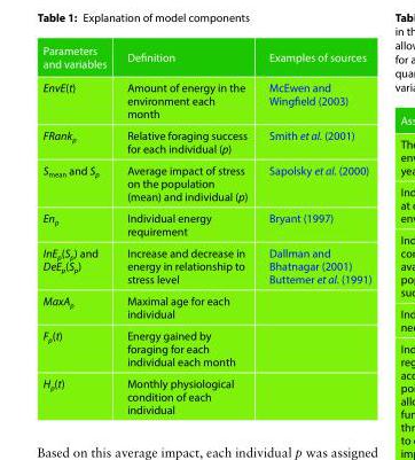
<table><thead><tr><td>Parameters and variables</td><td>Definition</td><td>Examples of sources</td></tr></thead><tbody><tr><td>EnvE(t)</td><td>Amount of energy in the environment each month</td><td>McEwen and Wingfield (2003)</td></tr><tr><td>FRank<sub>p</sub></td><td>Relative foraging success for each individual (p)</td><td>Smith et al. (2001)</td></tr><tr><td>S<sub>mean</sub> and S<sub>p</sub></td><td>Average impact of stress on the population (mean) and individual (p)</td><td>Sapolsky et al. (2000)</td></tr><tr><td>En<sub>p</sub></td><td>Individual energy requirement</td><td>Bryant (1997)</td></tr><tr><td>InE<sub>p</sub>(S<sub>p</sub>) and DeE<sub>p</sub>(S<sub>p</sub>)</td><td>Increase and decrease in energy in relationship to stress level</td><td>Dallman and Bhatnagar (2001) Buttemer et al. (1991)</td></tr><tr><td>MaxA<sub>p</sub></td><td>Maximal age for each individual</td><td></td></tr><tr><td>F<sub>p</sub>(t)</td><td>Energy gained by foraging for each individual each month</td><td></td></tr><tr><td>H<sub>p</sub>(t)</td><td>Monthly physiological condition of each individual</td><td></td></tr></tbody></table>